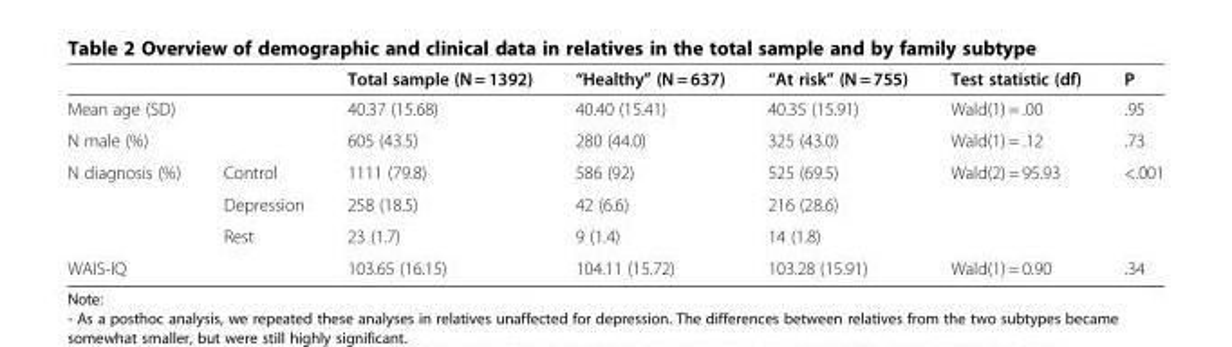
<table><thead><tr><td></td><td></td><td>Total sample (N = 1392)</td><td>“Healthy” (N = 637)</td><td>“At risk” (N = 755)</td><td>Test statistic (df)</td><td>P</td></tr></thead><tbody><tr><td>Mean age (SD)</td><td></td><td>40.37 (15.68)</td><td>40.40 (15.41)</td><td>40.35 (15.91)</td><td>Wald(1) = .00</td><td>.95</td></tr><tr><td>N male (%)</td><td></td><td>605 (43.5)</td><td>280 (44.0)</td><td>325 (43.0)</td><td>Wald(1) = .12</td><td>.73</td></tr><tr><td rowspan="3">N diagnosis (%)</td><td>Control</td><td>1111 (79.8)</td><td>586 (92)</td><td>525 (69.5)</td><td>Wald(2) = 95.93</td><td>&lt;.001</td></tr><tr><td>Depression</td><td>258 (18.5)</td><td>42 (6.6)</td><td>216 (28.6)</td><td></td><td></td></tr><tr><td>Rest</td><td>23 (1.7)</td><td>9 (1.4)</td><td>14 (1.8)</td><td></td><td></td></tr><tr><td>WAIS-IQ</td><td></td><td>103.65 (16.15)</td><td>104.11 (15.72)</td><td>103.28 (15.91)</td><td>Wald(1) = 0.90</td><td>.34</td></tr></tbody></table>